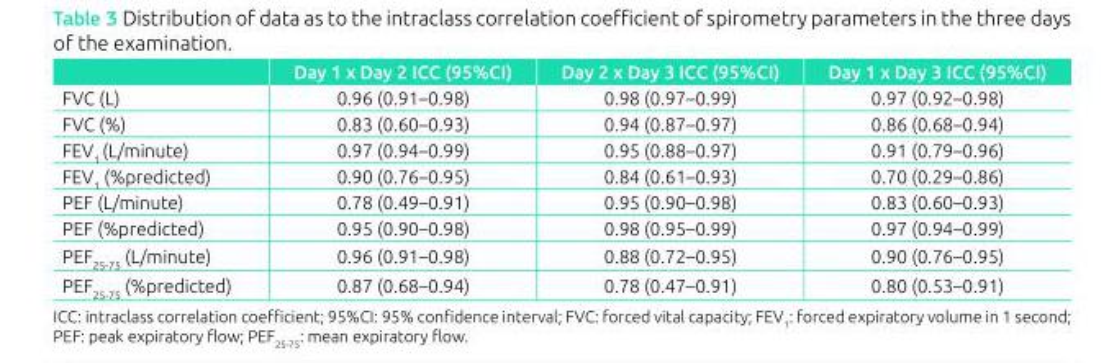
<table><thead><tr><td></td><td>Day 1 x Day 2 ICC (95%CI)</td><td>Day 2 x Day 3 ICC (95%CI)</td><td>Day 1 x Day 3 ICC (95%CI)</td></tr></thead><tbody><tr><td>FVC (L)</td><td>0.96 (0.91–0.98)</td><td>0.98 (0.97–0.99)</td><td>0.97 (0.92–0.98)</td></tr><tr><td>FVC (%)</td><td>0.83 (0.60–0.93)</td><td>0.94 (0.87–0.97)</td><td>0.86 (0.68–0.94)</td></tr><tr><td>FEV<sub>1</sub> (L/minute)</td><td>0.97 (0.94–0.99)</td><td>0.95 (0.88–0.97)</td><td>0.91 (0.79–0.96)</td></tr><tr><td>FEV<sub>1</sub> (%predicted)</td><td>0.90 (0.76–0.95)</td><td>0.84 (0.61–0.93)</td><td>0.70 (0.29–0.86)</td></tr><tr><td>PEF (L/minute)</td><td>0.78 (0.49–0.91)</td><td>0.95 (0.90–0.98)</td><td>0.83 (0.60–0.93)</td></tr><tr><td>PEF (%predicted)</td><td>0.95 (0.90–0.98)</td><td>0.98 (0.95–0.99)</td><td>0.97 (0.94–0.99)</td></tr><tr><td>PEF<sub>25-75</sub> (L/minute)</td><td>0.96 (0.91–0.98)</td><td>0.88 (0.72–0.95)</td><td>0.90 (0.76–0.95)</td></tr><tr><td>PEF<sub>25-75</sub> (%predicted)</td><td>0.87 (0.68–0.94)</td><td>0.78 (0.47–0.91)</td><td>0.80 (0.53–0.91)</td></tr></tbody></table>